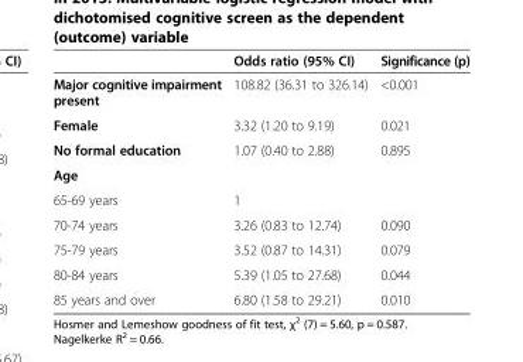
<table><thead><tr><td></td><td>Odds ratio (95% CI)</td><td>Significance (p)</td></tr></thead><tbody><tr><td>Major cognitive impairment present</td><td>108.82 (36.31 to 326.14)</td><td>&lt;0.001</td></tr><tr><td>Female</td><td>3.32 (1.20 to 9.19)</td><td>0.021</td></tr><tr><td>No formal education</td><td>1.07 (0.40 to 2.88)</td><td>0.895</td></tr><tr><td colspan="3">Age</td></tr><tr><td>65-69 years</td><td>1</td><td></td></tr><tr><td>70-74 years</td><td>3.26 (0.83 to 12.74)</td><td>0.090</td></tr><tr><td>75-79 years</td><td>3.52 (0.87 to 14.31)</td><td>0.079</td></tr><tr><td>80-84 years</td><td>5.39 (1.05 to 27.68)</td><td>0.044</td></tr><tr><td>85 years and over</td><td>6.80 (1.58 to 29.21)</td><td>0.010</td></tr></tbody></table>